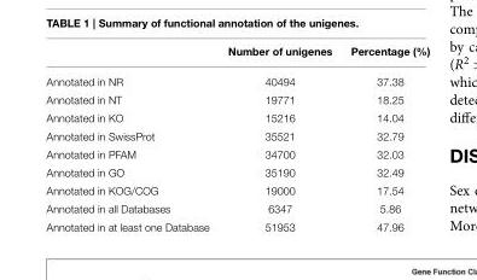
<table><thead><tr><td></td><td>Number of unigenes</td><td>Percentage (%)</td></tr></thead><tbody><tr><td>Annotated in NR</td><td>40494</td><td>37.38</td></tr><tr><td>Annotated in NT</td><td>19771</td><td>18.25</td></tr><tr><td>Annotated in KO</td><td>15216</td><td>14.04</td></tr><tr><td>Annotated in SwissProt</td><td>35521</td><td>32.79</td></tr><tr><td>Annotated in PFAM</td><td>34700</td><td>32.03</td></tr><tr><td>Annotated in GO</td><td>35190</td><td>32.49</td></tr><tr><td>Annotated in KOG/COG</td><td>19000</td><td>17.54</td></tr><tr><td>Annotated in all Databases</td><td>6347</td><td>5.86</td></tr><tr><td>Annotated in at least one Database</td><td>51953</td><td>47.96</td></tr></tbody></table>